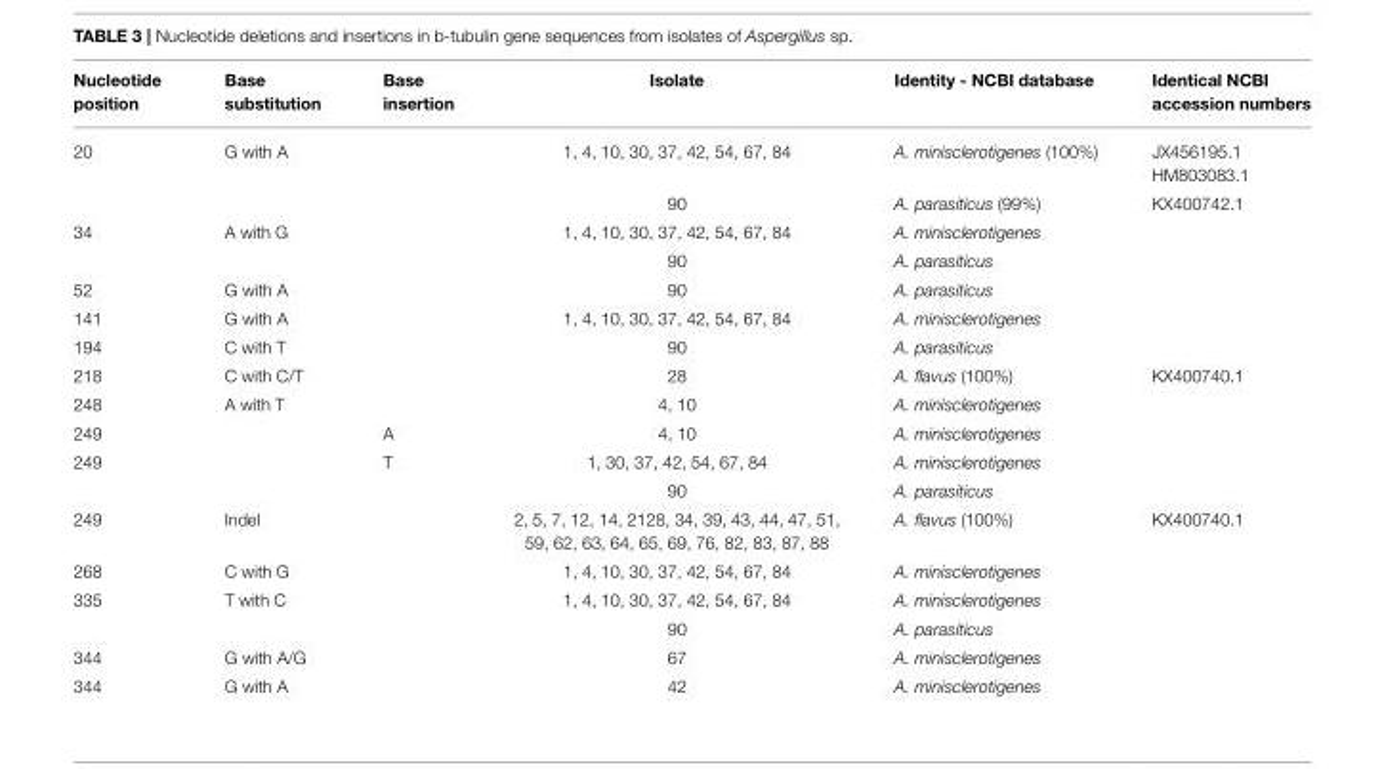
<table><thead><tr><td>Nucleotide position</td><td>Base substitution</td><td>Base insertion</td><td>Isolate</td><td>Identity - NCBI database</td><td>Identical NCBI accession numbers</td></tr></thead><tbody><tr><td rowspan="2">20</td><td>G with A</td><td></td><td>1, 4, 10, 30, 37, 42, 54, 67, 84</td><td>A. minisclerotigenes (100%)</td><td>JX456195.1 HM803083.1</td></tr><tr><td></td><td></td><td>90</td><td>A. parasiticus (99%)</td><td>KX400742.1</td></tr><tr><td rowspan="2">34</td><td>A with G</td><td></td><td>1, 4, 10, 30, 37, 42, 54, 67, 84</td><td>A. minisclerotigenes</td><td></td></tr><tr><td></td><td></td><td>90</td><td>A. parasiticus</td><td></td></tr><tr><td>52</td><td>G with A</td><td></td><td>90</td><td>A. parasiticus</td><td></td></tr><tr><td>141</td><td>G with A</td><td></td><td>1, 4, 10, 30, 37, 42, 54, 67, 84</td><td>A. minisclerotigenes</td><td></td></tr><tr><td>194</td><td>C with T</td><td></td><td>90</td><td>A. parasiticus</td><td></td></tr><tr><td>218</td><td>C with C/T</td><td></td><td>28</td><td>A. flavus (100%)</td><td>KX400740.1</td></tr><tr><td>248</td><td>A with T</td><td></td><td>4, 10</td><td>A. minisclerotigenes</td><td></td></tr><tr><td>249</td><td></td><td>A</td><td>4, 10</td><td>A. minisclerotigenes</td><td></td></tr><tr><td rowspan="2">249</td><td></td><td>T</td><td>1, 30, 37, 42, 54, 67, 84</td><td>A. minisclerotigenes</td><td></td></tr><tr><td></td><td></td><td>90</td><td>A. parasiticus</td><td></td></tr><tr><td>249</td><td>Indel</td><td></td><td>2, 5, 7, 12, 14, 2128, 34, 39, 43, 44, 47, 51, 59, 62, 63, 64, 65, 69, 76, 82, 83, 87, 88</td><td>A. flavus (100%)</td><td>KX400740.1</td></tr><tr><td>268</td><td>C with G</td><td></td><td>1, 4, 10, 30, 37, 42, 54, 67, 84</td><td>A. minisclerotigenes</td><td></td></tr><tr><td rowspan="2">335</td><td>T with C</td><td></td><td>1, 4, 10, 30, 37, 42, 54, 67, 84</td><td>A. minisclerotigenes</td><td></td></tr><tr><td></td><td></td><td>90</td><td>A. parasiticus</td><td></td></tr><tr><td>344</td><td>G with A/G</td><td></td><td>67</td><td>A. minisclerotigenes</td><td></td></tr><tr><td>344</td><td>G with A</td><td></td><td>42</td><td>A. minisclerotigenes</td><td></td></tr></tbody></table>